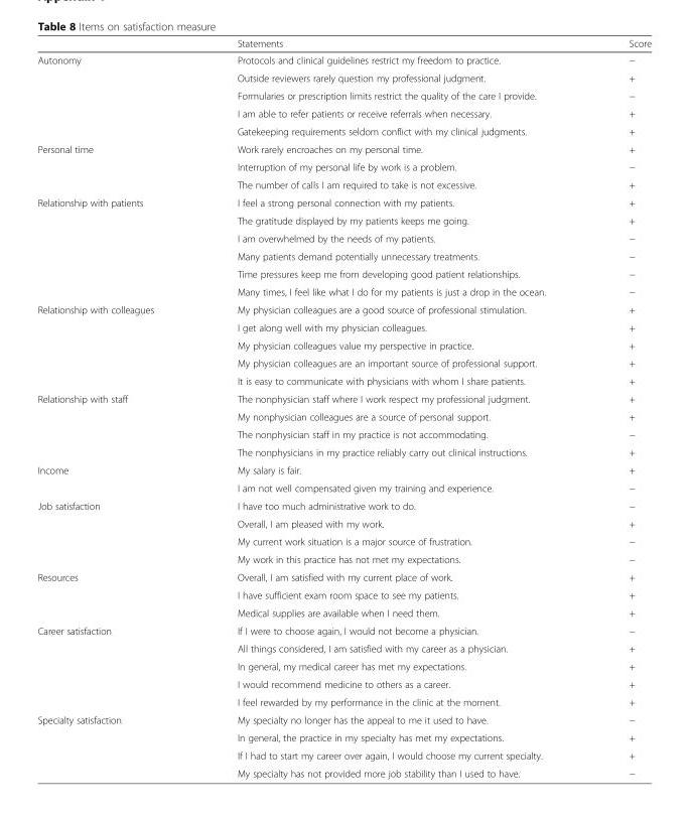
<table><thead><tr><td></td><td>Statements</td><td>Score</td></tr></thead><tbody><tr><td rowspan="5">Autonomy</td><td>Protocols and clinical guidelines restrict my freedom to practice.</td><td>−</td></tr><tr><td>Outside reviewers rarely question my professional judgment.</td><td>+</td></tr><tr><td>Formularies or prescription limits restrict the quality of the care I provide.</td><td>−</td></tr><tr><td>I am able to refer patients or receive referrals when necessary.</td><td>+</td></tr><tr><td>Gatekeeping requirements seldom conflict with my clinical judgments.</td><td>+</td></tr><tr><td rowspan="3">Personal time</td><td>Work rarely encroaches on my personal time.</td><td>+</td></tr><tr><td>Interruption of my personal life by work is a problem.</td><td>−</td></tr><tr><td>The number of calls I am required to take is not excessive.</td><td>+</td></tr><tr><td rowspan="6">Relationship with patients</td><td>I feel a strong personal connection with my patients.</td><td>+</td></tr><tr><td>The gratitude displayed by my patients keeps me going.</td><td>+</td></tr><tr><td>I am overwhelmed by the needs of my patients.</td><td>−</td></tr><tr><td>Many patients demand potentially unnecessary treatments.</td><td>−</td></tr><tr><td>Time pressures keep me from developing good patient relationships.</td><td>−</td></tr><tr><td>Many times, I feel like what I do for my patients is just a drop in the ocean.</td><td>−</td></tr><tr><td rowspan="5">Relationship with colleagues</td><td>My physician colleagues are a good source of professional stimulation.</td><td>+</td></tr><tr><td>I get along well with my physician colleagues.</td><td>+</td></tr><tr><td>My physician colleagues value my perspective in practice.</td><td>+</td></tr><tr><td>My physician colleagues are an important source of professional support.</td><td>+</td></tr><tr><td>It is easy to communicate with physicians with whom I share patients.</td><td>+</td></tr><tr><td rowspan="4">Relationship with staff</td><td>The nonphysician staff where I work respect my professional judgment.</td><td>+</td></tr><tr><td>My nonphysician colleagues are a source of personal support.</td><td>+</td></tr><tr><td>The nonphysician staff in my practice is not accommodating.</td><td>−</td></tr><tr><td>The nonphysicians in my practice reliably carry out clinical instructions.</td><td>+</td></tr><tr><td rowspan="2">Income</td><td>My salary is fair.</td><td>+</td></tr><tr><td>I am not well compensated given my training and experience.</td><td>−</td></tr><tr><td rowspan="4">Job satisfaction</td><td>I have too much administrative work to do.</td><td>−</td></tr><tr><td>Overall, I am pleased with my work.</td><td>+</td></tr><tr><td>My current work situation is a major source of frustration.</td><td>−</td></tr><tr><td>My work in this practice has not met my expectations.</td><td>−</td></tr><tr><td rowspan="3">Resources</td><td>Overall, I am satisfied with my current place of work.</td><td>+</td></tr><tr><td>I have sufficient exam room space to see my patients.</td><td>+</td></tr><tr><td>Medical supplies are available when I need them.</td><td>+</td></tr><tr><td rowspan="5">Career satisfaction</td><td>If I were to choose again, I would not become a physician.</td><td>−</td></tr><tr><td>All things considered, I am satisfied with my career as a physician.</td><td>+</td></tr><tr><td>In general, my medical career has met my expectations.</td><td>+</td></tr><tr><td>I would recommend medicine to others as a career.</td><td>+</td></tr><tr><td>I feel rewarded by my performance in the clinic at the moment.</td><td>+</td></tr><tr><td rowspan="4">Specialty satisfaction</td><td>My specialty no longer has the appeal to me it used to have.</td><td>−</td></tr><tr><td>In general, the practice in my specialty has met my expectations.</td><td>+</td></tr><tr><td>If I had to start my career over again, I would choose my current specialty.</td><td>+</td></tr><tr><td>My specialty has not provided more job stability than I used to have.</td><td>−</td></tr></tbody></table>